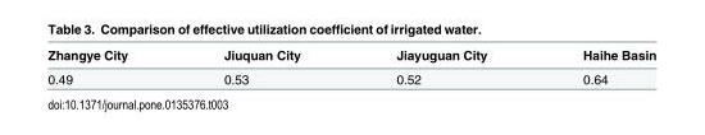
<table><thead><tr><td>Zhangye City</td><td>Jiuquan City</td><td>Jiayuguan City</td><td>Haihe Basin</td></tr></thead><tbody><tr><td>0.49</td><td>0.53</td><td>0.52</td><td>0.64</td></tr></tbody></table>